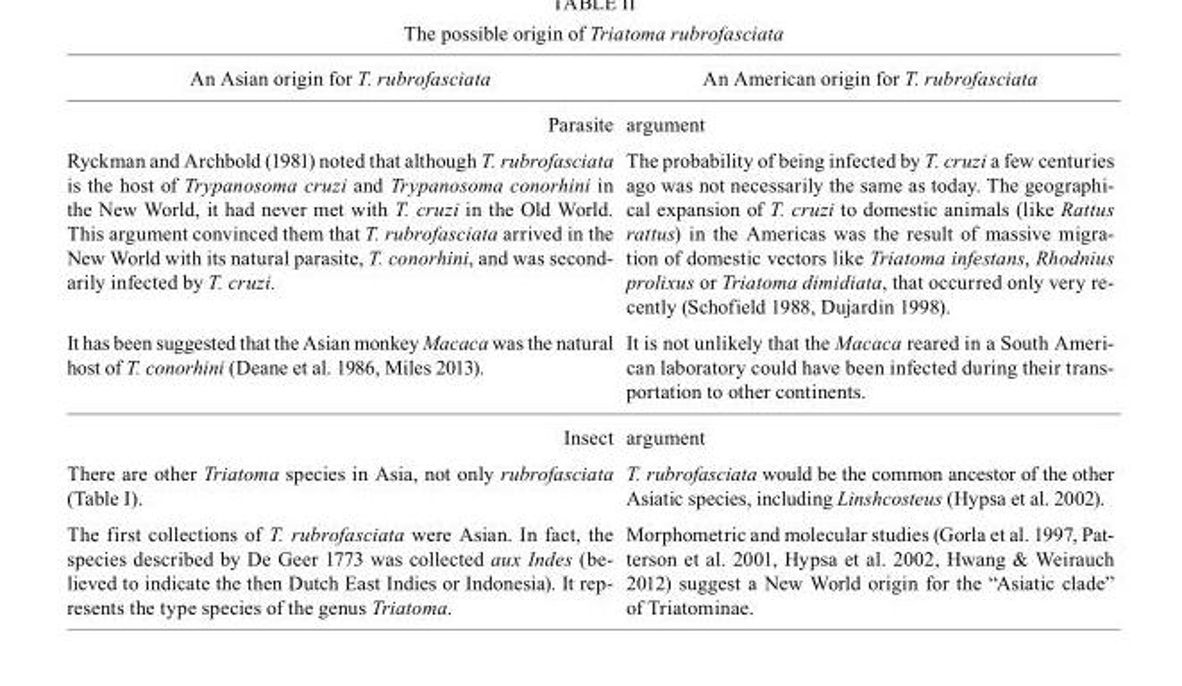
<table><thead><tr><td>An Asian origin for T. rubrofasciata</td><td>An American origin for T. rubrofasciata</td></tr></thead><tbody><tr><td>Parasite</td><td>argument</td></tr><tr><td>Ryckman and Archbold (1981) noted that although T. rubrofasciata is the host of Trypanosoma cruzi and Trypanosoma conorhini in the New World, it had never met with T. cruzi in the Old World. This argument convinced them that T. rubrofasciata arrived in the New World with its natural parasite, T. conorhini, and was second- arily infected by T. cruzi.</td><td>The probability of being infected by T. cruzi a few centuries ago was not necessarily the same as today. The geographi- cal expansion of T. cruzi to domestic animals (like Rattus rattus) in the Americas was the result of massive migra- tion of domestic vectors like Triatoma infestans, Rhodnius prolixus or Triatoma dimidiata, that occurred only very re- cently (Schofield 1988, Dujardin 1998).</td></tr><tr><td>It has been suggested that the Asian monkey Macaca was the natural host of T. conorhini (Deane et al. 1986, Miles 2013).</td><td>It is not unlikely that the Macaca reared in a South Ameri- can laboratory could have been infected during their trans- portation to other continents.</td></tr><tr><td>Insect</td><td>argument</td></tr><tr><td>There are other Triatoma species in Asia, not only rubrofasciata (Table I).</td><td>T. rubrofasciata would be the common ancestor of the other Asiatic species, including Linshcosteus (Hypsa et al. 2002).</td></tr><tr><td>The first collections of T. rubrofasciata were Asian. In fact, the species described by De Geer 1773 was collected aux Indes (be- lieved to indicate the then Dutch East Indies or Indonesia). It rep- resents the type species of the genus Triatoma.</td><td>Morphometric and molecular studies (Gorla et al. 1997, Pat- terson et al. 2001, Hypsa et al. 2002, Hwang &amp; Weirauch 2012) suggest a New World origin for the “Asiatic clade” of Triatominae.</td></tr></tbody></table>